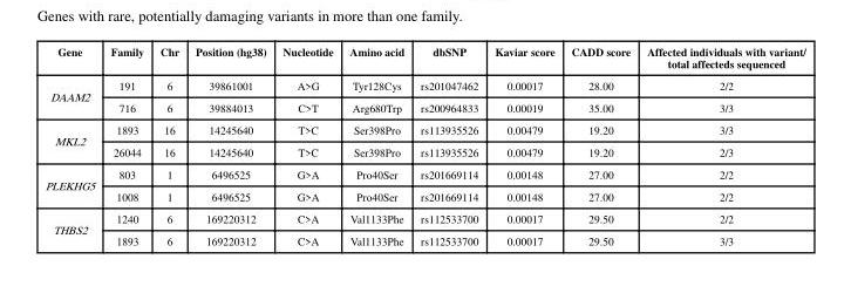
<table><thead><tr><td>Gene</td><td>Family</td><td>Chr</td><td>Position (hg38)</td><td>Nucleotide</td><td>Amino acid</td><td>dbSNP</td><td>Kaviar score</td><td>CADD score</td><td>Affected individuals with variant/ total affecteds sequenced</td></tr></thead><tbody><tr><td rowspan="2">DAAM2</td><td>191</td><td>6</td><td>39861001</td><td>A&gt;G</td><td>Tyr128Cys</td><td>rs201047462</td><td>0.00017</td><td>28.00</td><td>2/2</td></tr><tr><td>716</td><td>6</td><td>39884013</td><td>C&gt;T</td><td>Arg680Trp</td><td>rs200964833</td><td>0.00019</td><td>35.00</td><td>3/3</td></tr><tr><td rowspan="2">MKL2</td><td>1893</td><td>16</td><td>14245640</td><td>T&gt;C</td><td>Ser398Pro</td><td>rs113935526</td><td>0.00479</td><td>19.20</td><td>3/3</td></tr><tr><td>26044</td><td>16</td><td>14245640</td><td>T&gt;C</td><td>Ser398Pro</td><td>rs113935526</td><td>0.00479</td><td>19.20</td><td>2/3</td></tr><tr><td rowspan="2">PLEKHG5</td><td>803</td><td>1</td><td>6496525</td><td>G&gt;A</td><td>Pro40Ser</td><td>rs201669114</td><td>0.00148</td><td>27.00</td><td>2/2</td></tr><tr><td>1008</td><td>1</td><td>6496525</td><td>G&gt;A</td><td>Pro40Ser</td><td>rs201669114</td><td>0.00148</td><td>27.00</td><td>2/2</td></tr><tr><td rowspan="2">THBS2</td><td>1240</td><td>6</td><td>169220312</td><td>C&gt;A</td><td>Val1133Phe</td><td>rs112533700</td><td>0.00017</td><td>29.50</td><td>2/2</td></tr><tr><td>1893</td><td>6</td><td>169220312</td><td>C&gt;A</td><td>Val1133Phe</td><td>rs112533700</td><td>0.00017</td><td>29.50</td><td>3/3</td></tr></tbody></table>